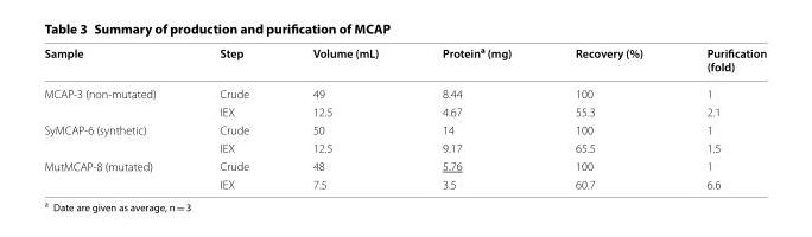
<table><thead><tr><td>Sample</td><td>Step</td><td>Volume (mL)</td><td>Protein<sup>a</sup> (mg)</td><td>Recovery (%)</td><td>Purification (fold)</td></tr></thead><tbody><tr><td rowspan="2">MCAP‑3 (non‑mutated)</td><td>Crude</td><td>49</td><td>8.44</td><td>100</td><td>1</td></tr><tr><td>IEX</td><td>12.5</td><td>4.67</td><td>55.3</td><td>2.1</td></tr><tr><td rowspan="2">SyMCAP‑6 (synthetic)</td><td>Crude</td><td>50</td><td>14</td><td>100</td><td>1</td></tr><tr><td>IEX</td><td>12.5</td><td>9.17</td><td>65.5</td><td>1.5</td></tr><tr><td rowspan="2">MutMCAP‑8 (mutated)</td><td>Crude</td><td>48</td><td>5.76</td><td>100</td><td>1</td></tr><tr><td>IEX</td><td>7.5</td><td>3.5</td><td>60.7</td><td>6.6</td></tr></tbody></table>